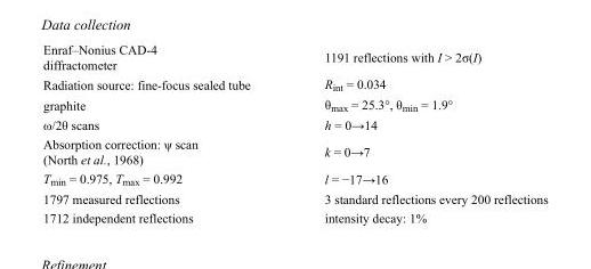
<table><tbody><tr><td>Enraf–Nonius CAD-4 diffractometer</td><td>1191 reflections with I &gt; 2σ(I)</td></tr><tr><td>Radiation source: fine-focus sealed tube</td><td>R<sub>int</sub> = 0.034</td></tr><tr><td>graphite</td><td>θ<sub>max</sub> = 25.3°, θ<sub>min</sub> = 1.9°</td></tr><tr><td>ω/2θ scans</td><td>h = 0→14</td></tr><tr><td>Absorption correction: ψ scan (North et al., 1968)</td><td>k = 0→7</td></tr><tr><td>T<sub>min</sub> = 0.975, T<sub>max</sub> = 0.992</td><td>l = −17→16</td></tr><tr><td>1797 measured reflections</td><td>3 standard reflections every 200 reflections</td></tr><tr><td>1712 independent reflections</td><td>intensity decay: 1%</td></tr></tbody></table>